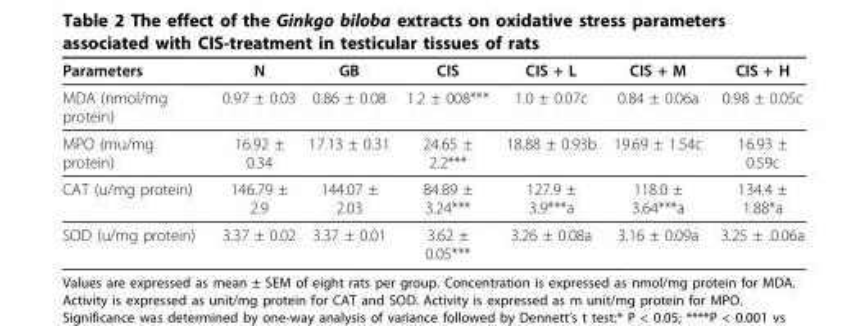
<table><thead><tr><td>Parameters</td><td>N</td><td>GB</td><td>CIS</td><td>CIS + L</td><td>CIS + M</td><td>CIS + H</td></tr></thead><tbody><tr><td>MDA (nmol/mg protein)</td><td>0.97 ± 0.03</td><td>0.86 ± 0.08</td><td>1.2 ± 008***</td><td>1.0 ± 0.07c</td><td>0.84 ± 0.06a</td><td>0.98 ± 0.05c</td></tr><tr><td>MPO (mu/mg protein)</td><td>16.92 ± 0.34</td><td>17.13 ± 0.31</td><td>24.65 ± 2.2***</td><td>18.88 ± 0.93b</td><td>19.69 ± 1.54c</td><td>16.93 ± 0.59c</td></tr><tr><td>CAT (u/mg protein)</td><td>146.79 ± 2.9</td><td>144.07 ± 2.03</td><td>84.89 ± 3.24***</td><td>127.9 ± 3.9***a</td><td>118.0 ± 3.64***a</td><td>134.4 ± 1.88*a</td></tr><tr><td>SOD (u/mg protein)</td><td>3.37 ± 0.02</td><td>3.37 ± 0.01</td><td>3.62 ± 0.05***</td><td>3.26 ± 0.08a</td><td>3.16 ± 0.09a</td><td>3.25 ± .0.06a</td></tr></tbody></table>